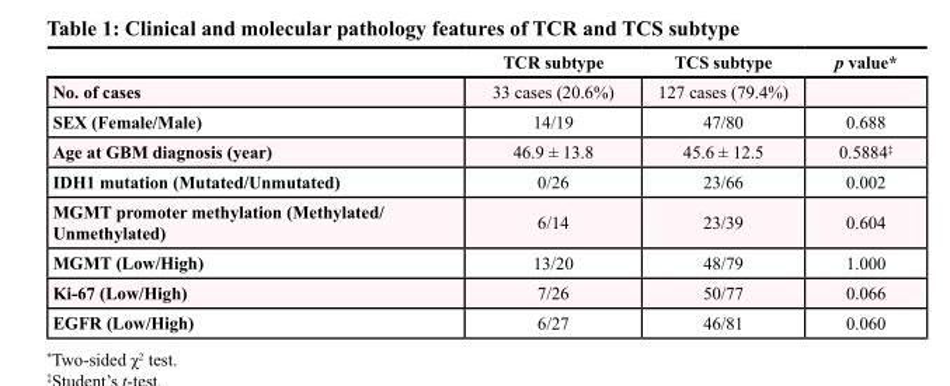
<table><thead><tr><td></td><td>TCR subtype</td><td>TCS subtype</td><td>p value*</td></tr></thead><tbody><tr><td>No. of cases</td><td>33 cases (20.6%)</td><td>127 cases (79.4%)</td><td></td></tr><tr><td>SEX (Female/Male)</td><td>14/19</td><td>47/80</td><td>0.688</td></tr><tr><td>Age at GBM diagnosis (year)</td><td>46.9 ± 13.8</td><td>45.6 ± 12.5</td><td>0.5884<sup>‡</sup></td></tr><tr><td>IDH1 mutation (Mutated/Unmutated)</td><td>0/26</td><td>23/66</td><td>0.002</td></tr><tr><td>MGMT promoter methylation (Methylated/ Unmethylated)</td><td>6/14</td><td>23/39</td><td>0.604</td></tr><tr><td>MGMT (Low/High)</td><td>13/20</td><td>48/79</td><td>1.000</td></tr><tr><td>Ki-67 (Low/High)</td><td>7/26</td><td>50/77</td><td>0.066</td></tr><tr><td>EGFR (Low/High)</td><td>6/27</td><td>46/81</td><td>0.060</td></tr></tbody></table>